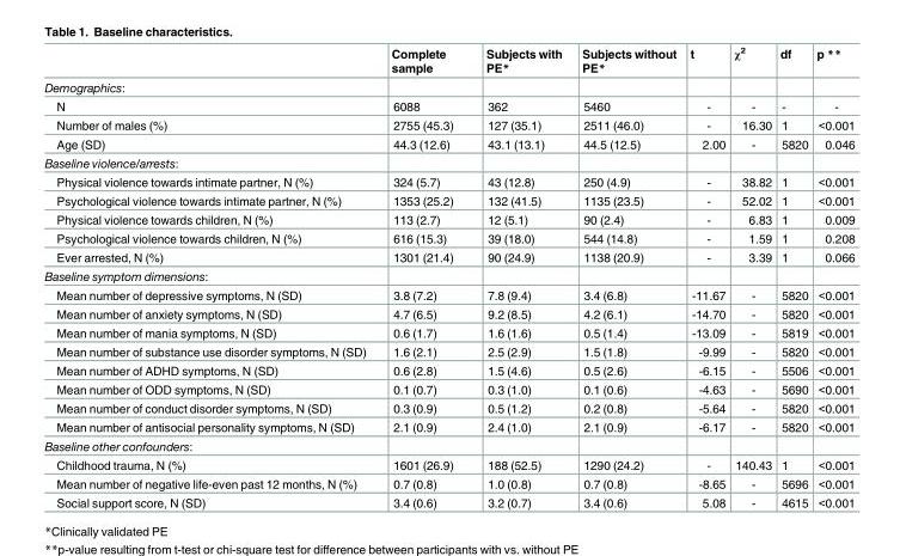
<table><thead><tr><td></td><td>Complete sample</td><td>Subjects with PE*</td><td>Subjects without PE*</td><td>t</td><td>χ<sup>2</sup></td><td>df</td><td>p **</td></tr></thead><tbody><tr><td colspan="8">Demographics:</td></tr><tr><td>N</td><td>6088</td><td>362</td><td>5460</td><td>-</td><td>-</td><td>-</td><td>-</td></tr><tr><td>Number of males (%)</td><td>2755 (45.3)</td><td>127 (35.1)</td><td>2511 (46.0)</td><td>-</td><td>16.30</td><td>1</td><td>&lt;0.001</td></tr><tr><td>Age (SD)</td><td>44.3 (12.6)</td><td>43.1 (13.1)</td><td>44.5 (12.5)</td><td>2.00</td><td>-</td><td>5820</td><td>0.046</td></tr><tr><td colspan="8">Baseline violence/arrests:</td></tr><tr><td>Physical violence towards intimate partner, N (%)</td><td>324 (5.7)</td><td>43 (12.8)</td><td>250 (4.9)</td><td>-</td><td>38.82</td><td>1</td><td>&lt;0.001</td></tr><tr><td>Psychological violence towards intimate partner, N (%)</td><td>1353 (25.2)</td><td>132 (41.5)</td><td>1135 (23.5)</td><td>-</td><td>52.02</td><td>1</td><td>&lt;0.001</td></tr><tr><td>Physical violence towards children, N (%)</td><td>113 (2.7)</td><td>12 (5.1)</td><td>90 (2.4)</td><td>-</td><td>6.83</td><td>1</td><td>0.009</td></tr><tr><td>Psychological violence towards children, N (%)</td><td>616 (15.3)</td><td>39 (18.0)</td><td>544 (14.8)</td><td>-</td><td>1.59</td><td>1</td><td>0.208</td></tr><tr><td>Ever arrested, N (%)</td><td>1301 (21.4)</td><td>90 (24.9)</td><td>1138 (20.9)</td><td>-</td><td>3.39</td><td>1</td><td>0.066</td></tr><tr><td colspan="8">Baseline symptom dimensions:</td></tr><tr><td>Mean number of depressive symptoms, N (SD)</td><td>3.8 (7.2)</td><td>7.8 (9.4)</td><td>3.4 (6.8)</td><td>-11.67</td><td>-</td><td>5820</td><td>&lt;0.001</td></tr><tr><td>Mean number of anxiety symptoms, N (SD)</td><td>4.7 (6.5)</td><td>9.2 (8.5)</td><td>4.2 (6.1)</td><td>-14.70</td><td>-</td><td>5820</td><td>&lt;0.001</td></tr><tr><td>Mean number of mania symptoms, N (SD)</td><td>0.6 (1.7)</td><td>1.6 (1.6)</td><td>0.5 (1.4)</td><td>-13.09</td><td>-</td><td>5819</td><td>&lt;0.001</td></tr><tr><td>Mean number of substance use disorder symptoms, N (SD)</td><td>1.6 (2.1)</td><td>2.5 (2.9)</td><td>1.5 (1.8)</td><td>-9.99</td><td>-</td><td>5820</td><td>&lt;0.001</td></tr><tr><td>Mean number of ADHD symptoms, N (SD)</td><td>0.6 (2.8)</td><td>1.5 (4.6)</td><td>0.5 (2.6)</td><td>-6.15</td><td>-</td><td>5506</td><td>&lt;0.001</td></tr><tr><td>Mean number of ODD symptoms, N (SD)</td><td>0.1 (0.7)</td><td>0.3 (1.0)</td><td>0.1 (0.6)</td><td>-4.63</td><td>-</td><td>5690</td><td>&lt;0.001</td></tr><tr><td>Mean number of conduct disorder symptoms, N (SD)</td><td>0.3 (0.9)</td><td>0.5 (1.2)</td><td>0.2 (0.8)</td><td>-5.64</td><td>-</td><td>5820</td><td>&lt;0.001</td></tr><tr><td>Mean number of antisocial personality symptoms, N (SD)</td><td>2.1 (0.9)</td><td>2.4 (1.0)</td><td>2.1 (0.9)</td><td>-6.17</td><td>-</td><td>5820</td><td>&lt;0.001</td></tr><tr><td colspan="8">Baseline other confounders:</td></tr><tr><td>Childhood trauma, N (%)</td><td>1601 (26.9)</td><td>188 (52.5)</td><td>1290 (24.2)</td><td>-</td><td>140.43</td><td>1</td><td>&lt;0.001</td></tr><tr><td>Mean number of negative life-even past 12 months, N (%)</td><td>0.7 (0.8)</td><td>1.0 (0.8)</td><td>0.7 (0.8)</td><td>-8.65</td><td>-</td><td>5696</td><td>&lt;0.001</td></tr><tr><td>Social support score, N (SD)</td><td>3.4 (0.6)</td><td>3.2 (0.7)</td><td>3.4 (0.6)</td><td>5.08</td><td>-</td><td>4615</td><td>&lt;0.001</td></tr></tbody></table>